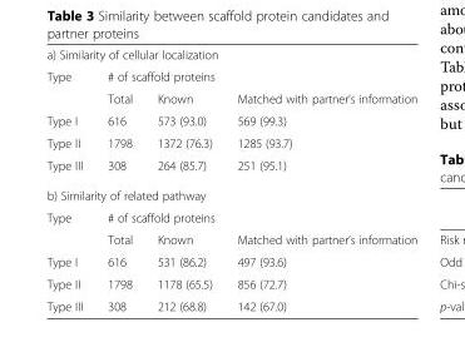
<table><tbody><tr><td colspan="4">a) Similarity of cellular localization</td></tr><tr><td rowspan="2">Type</td><td colspan="3"># of scaffold proteins</td></tr><tr><td>Total</td><td>Known</td><td>Matched with partner’s information</td></tr><tr><td>Type I</td><td>616</td><td>573 (93.0)</td><td>569 (99.3)</td></tr><tr><td>Type II</td><td>1798</td><td>1372 (76.3)</td><td>1285 (93.7)</td></tr><tr><td>Type III</td><td>308</td><td>264 (85.7)</td><td>251 (95.1)</td></tr><tr><td colspan="4">b) Similarity of related pathway</td></tr><tr><td rowspan="2">Type</td><td colspan="3"># of scaffold proteins</td></tr><tr><td>Total</td><td>Known</td><td>Matched with partner’s information</td></tr><tr><td>Type I</td><td>616</td><td>531 (86.2)</td><td>497 (93.6)</td></tr><tr><td>Type II</td><td>1798</td><td>1178 (65.5)</td><td>856 (72.7)</td></tr><tr><td>Type III</td><td>308</td><td>212 (68.8)</td><td>142 (67.0)</td></tr></tbody></table>